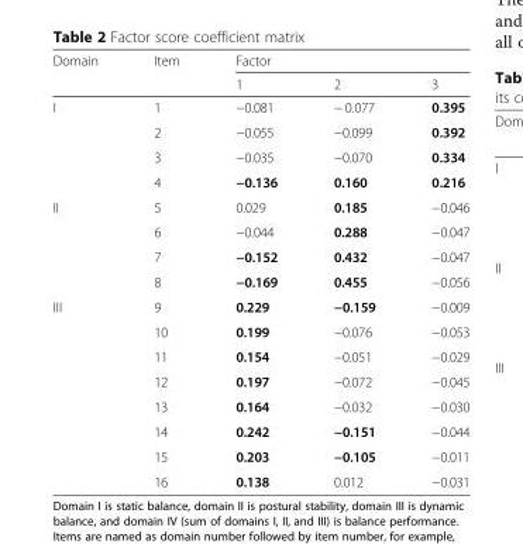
<table><thead><tr><td rowspan="2">Domain</td><td rowspan="2">Item</td><td colspan="3">Factor</td></tr><tr><td>1</td><td>2</td><td>3</td></tr></thead><tbody><tr><td rowspan="4">I</td><td>1</td><td>−0.081</td><td>− 0.077</td><td>0.395</td></tr><tr><td>2</td><td>−0.055</td><td>−0.099</td><td>0.392</td></tr><tr><td>3</td><td>−0.035</td><td>−0.070</td><td>0.334</td></tr><tr><td>4</td><td>−0.136</td><td>0.160</td><td>0.216</td></tr><tr><td rowspan="4">II</td><td>5</td><td>0.029</td><td>0.185</td><td>−0.046</td></tr><tr><td>6</td><td>−0.044</td><td>0.288</td><td>−0.047</td></tr><tr><td>7</td><td>−0.152</td><td>0.432</td><td>−0.047</td></tr><tr><td>8</td><td>−0.169</td><td>0.455</td><td>−0.056</td></tr><tr><td rowspan="8">III</td><td>9</td><td>0.229</td><td>−0.159</td><td>−0.009</td></tr><tr><td>10</td><td>0.199</td><td>−0.076</td><td>−0.053</td></tr><tr><td>11</td><td>0.154</td><td>−0.051</td><td>−0.029</td></tr><tr><td>12</td><td>0.197</td><td>−0.072</td><td>−0.045</td></tr><tr><td>13</td><td>0.164</td><td>−0.032</td><td>−0.030</td></tr><tr><td>14</td><td>0.242</td><td>−0.151</td><td>−0.044</td></tr><tr><td>15</td><td>0.203</td><td>−0.105</td><td>−0.011</td></tr><tr><td>16</td><td>0.138</td><td>0.012</td><td>−0.031</td></tr></tbody></table>